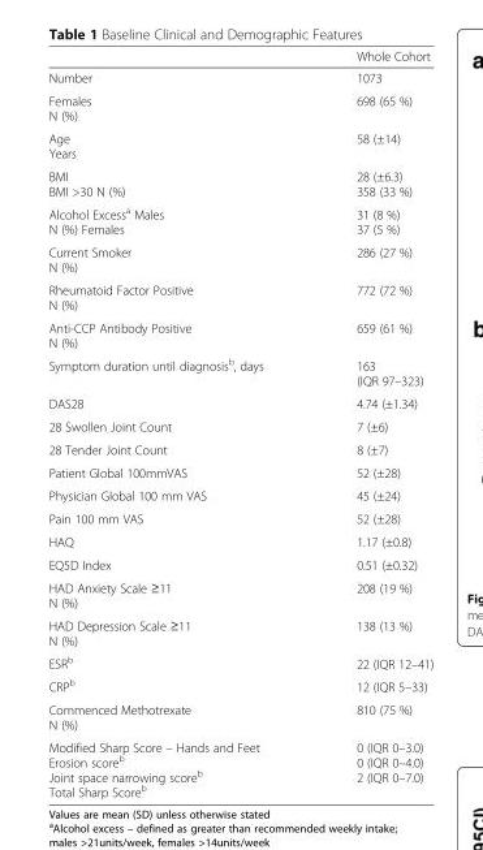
<table><thead><tr><td></td><td>Whole Cohort</td></tr></thead><tbody><tr><td>Number</td><td>1073</td></tr><tr><td>Females N (%)</td><td>698 (65 %)</td></tr><tr><td>Age Years</td><td>58 (±14)</td></tr><tr><td>BMI BMI &gt;30 N (%)</td><td>28 (±6.3) 358 (33 %)</td></tr><tr><td>Alcohol Excess<sup>a</sup> Males N (%) Females</td><td>31 (8 %) 37 (5 %)</td></tr><tr><td>Current Smoker N (%)</td><td>286 (27 %)</td></tr><tr><td>Rheumatoid Factor Positive N (%)</td><td>772 (72 %)</td></tr><tr><td>Anti-CCP Antibody Positive N (%)</td><td>659 (61 %)</td></tr><tr><td>Symptom duration until diagnosis<sup>b</sup>, days</td><td>163 (IQR 97–323)</td></tr><tr><td>DAS28</td><td>4.74 (±1.34)</td></tr><tr><td>28 Swollen Joint Count</td><td>7 (±6)</td></tr><tr><td>28 Tender Joint Count</td><td>8 (±7)</td></tr><tr><td>Patient Global 100mmVAS</td><td>52 (±28)</td></tr><tr><td>Physician Global 100 mm VAS</td><td>45 (±24)</td></tr><tr><td>Pain 100 mm VAS</td><td>52 (±28)</td></tr><tr><td>HAQ</td><td>1.17 (±0.8)</td></tr><tr><td>EQ5D Index</td><td>0.51 (±0.32)</td></tr><tr><td>HAD Anxiety Scale ≥11 N (%)</td><td>208 (19 %)</td></tr><tr><td>HAD Depression Scale ≥11 N (%)</td><td>138 (13 %)</td></tr><tr><td>ESR<sup>b</sup></td><td>22 (IQR 12–41)</td></tr><tr><td>CRP<sup>b</sup></td><td>12 (IQR 5–33)</td></tr><tr><td>Commenced Methotrexate N (%)</td><td>810 (75 %)</td></tr><tr><td>Modified Sharp Score – Hands and Feet Erosion score<sup>b</sup> Joint space narrowing score<sup>b</sup> Total Sharp Score<sup>b</sup></td><td>0 (IQR 0–3.0) 0 (IQR 0–4.0) 2 (IQR 0–7.0)</td></tr></tbody></table>